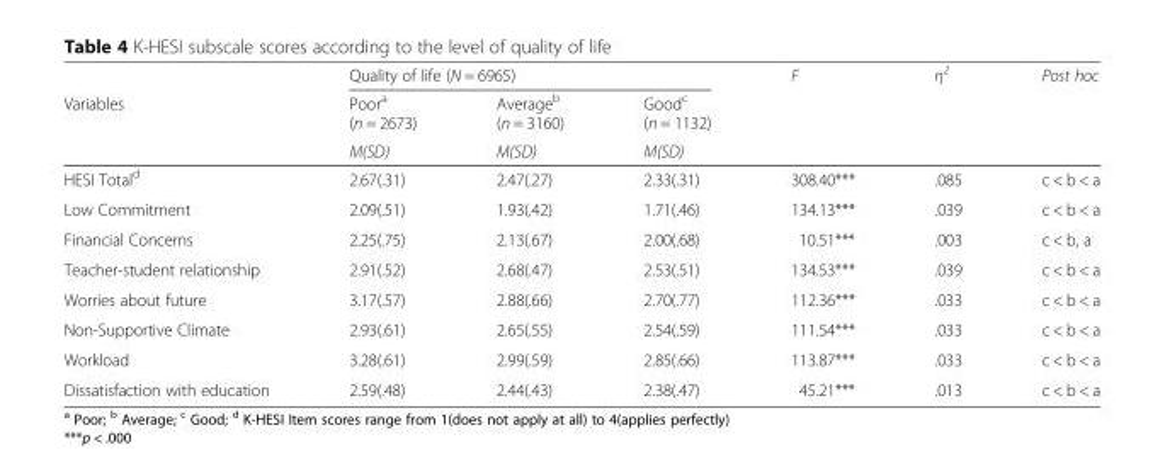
<table><thead><tr><td rowspan="3">Variables</td><td colspan="3">Quality of life (N = 6965)</td><td rowspan="3">F</td><td rowspan="3">η<sup>2</sup></td><td rowspan="3">Post hoc</td></tr><tr><td rowspan="2">Poor<sup>a</sup> (n = 2673) M(SD)</td><td rowspan="2">Average<sup>b</sup> (n = 3160) M(SD)</td><td rowspan="2">Good<sup>c</sup> (n = 1132) M(SD)</td></tr><tr></tr></thead><tbody><tr><td>HESI Total<sup>d</sup></td><td>2.67(.31)</td><td>2.47(.27)</td><td>2.33(.31)</td><td>308.40***</td><td>.085</td><td>c &lt; b &lt; a</td></tr><tr><td>Low Commitment</td><td>2.09(.51)</td><td>1.93(.42)</td><td>1.71(.46)</td><td>134.13***</td><td>.039</td><td>c &lt; b &lt; a</td></tr><tr><td>Financial Concerns</td><td>2.25(.75)</td><td>2.13(.67)</td><td>2.00(.68)</td><td>10.51***</td><td>.003</td><td>c &lt; b, a</td></tr><tr><td>Teacher-student relationship</td><td>2.91(.52)</td><td>2.68(.47)</td><td>2.53(.51)</td><td>134.53***</td><td>.039</td><td>c &lt; b &lt; a</td></tr><tr><td>Worries about future</td><td>3.17(.57)</td><td>2.88(.66)</td><td>2.70(.77)</td><td>112.36***</td><td>.033</td><td>c &lt; b &lt; a</td></tr><tr><td>Non-Supportive Climate</td><td>2.93(.61)</td><td>2.65(.55)</td><td>2.54(.59)</td><td>111.54***</td><td>.033</td><td>c &lt; b &lt; a</td></tr><tr><td>Workload</td><td>3.28(.61)</td><td>2.99(.59)</td><td>2.85(.66)</td><td>113.87***</td><td>.033</td><td>c &lt; b &lt; a</td></tr><tr><td>Dissatisfaction with education</td><td>2.59(.48)</td><td>2.44(.43)</td><td>2.38(.47)</td><td>45.21***</td><td>.013</td><td>c &lt; b &lt; a</td></tr></tbody></table>